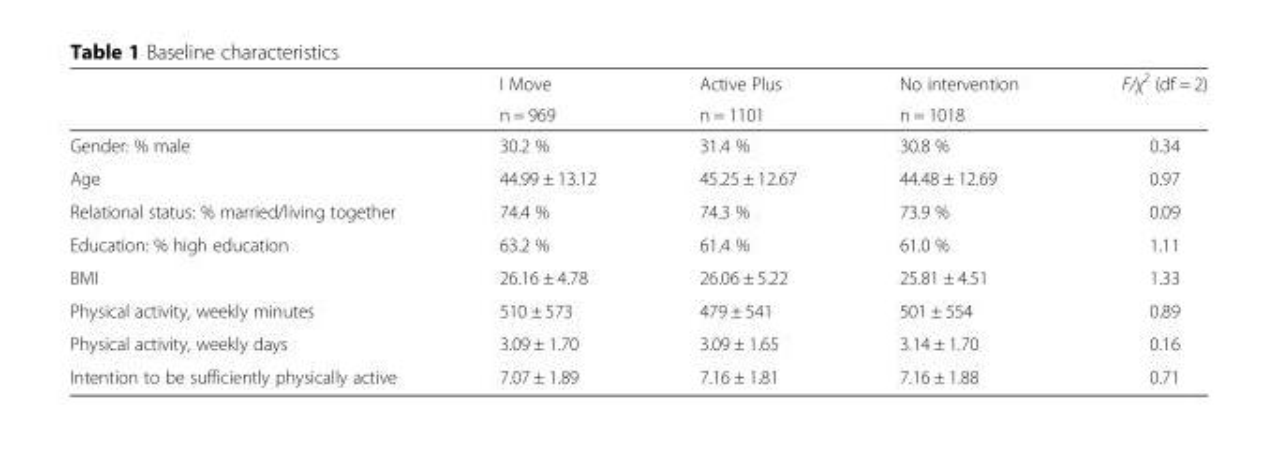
<table><thead><tr><td rowspan="2"></td><td rowspan="2">I Move n = 969</td><td rowspan="2">Active Plus n = 1101</td><td rowspan="2">No intervention n = 1018</td><td rowspan="2">F/χ<sup>2</sup> (df = 2)</td></tr><tr></tr></thead><tbody><tr><td>Gender: % male</td><td>30.2 %</td><td>31.4 %</td><td>30.8 %</td><td>0.34</td></tr><tr><td>Age</td><td>44.99 ± 13.12</td><td>45.25 ± 12.67</td><td>44.48 ± 12.69</td><td>0.97</td></tr><tr><td>Relational status: % married/living together</td><td>74.4 %</td><td>74.3 %</td><td>73.9 %</td><td>0.09</td></tr><tr><td>Education: % high education</td><td>63.2 %</td><td>61.4 %</td><td>61.0 %</td><td>1.11</td></tr><tr><td>BMI</td><td>26.16 ± 4.78</td><td>26.06 ± 5.22</td><td>25.81 ± 4.51</td><td>1.33</td></tr><tr><td>Physical activity, weekly minutes</td><td>510 ± 573</td><td>479 ± 541</td><td>501 ± 554</td><td>0.89</td></tr><tr><td>Physical activity, weekly days</td><td>3.09 ± 1.70</td><td>3.09 ± 1.65</td><td>3.14 ± 1.70</td><td>0.16</td></tr><tr><td>Intention to be sufficiently physically active</td><td>7.07 ± 1.89</td><td>7.16 ± 1.81</td><td>7.16 ± 1.88</td><td>0.71</td></tr></tbody></table>